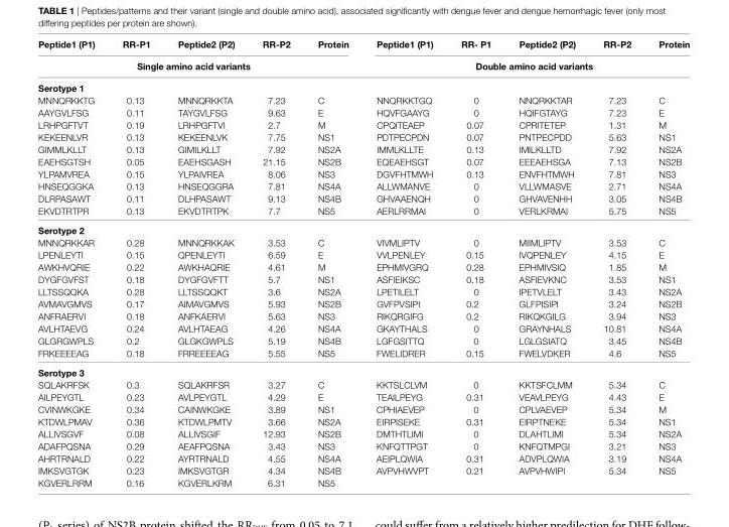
<table><thead><tr><td>Peptide1 (P1)</td><td>rr-P1</td><td>Peptide2 (P2)</td><td>rr-P2</td><td>Protein</td><td>Peptide1 (P1)</td><td>rr- P1</td><td>Peptide2 (P2)</td><td>rr-P2</td><td>Protein</td></tr><tr><td colspan="5">single amino acid variants</td><td colspan="5">Double amino acid variants</td></tr></thead><tbody><tr><td colspan="10">serotype 1</td></tr><tr><td>MNNQRKKTG</td><td>0.13</td><td>MNNQRKKTA</td><td>7.23</td><td>C</td><td>NNQRKKTGQ</td><td>0</td><td>NNQRKKTAR</td><td>7.23</td><td>C</td></tr><tr><td>AAYGVLFSG</td><td>0.11</td><td>TAYGVLFSG</td><td>9.63</td><td>E</td><td>HQVFGAAYG</td><td>0</td><td>HQIFGTAYG</td><td>7.23</td><td>E</td></tr><tr><td>LRHPGFTVT</td><td>0.19</td><td>LRHPGFTVI</td><td>2.7</td><td>M</td><td>CPQITEAEP</td><td>0.07</td><td>CPRITETEP</td><td>1.31</td><td>M</td></tr><tr><td>KEKEENLVR</td><td>0.13</td><td>KEKEENLVK</td><td>7.75</td><td>NS1</td><td>PDTPECPDN</td><td>0.07</td><td>PNTPECPDD</td><td>5.63</td><td>NS1</td></tr><tr><td>GIMMLKLLT</td><td>0.13</td><td>GIMILKLLT</td><td>7.92</td><td>NS2A</td><td>IMMLKLLTE</td><td>0.13</td><td>IMILKLLTD</td><td>7.92</td><td>NS2A</td></tr><tr><td>EAEHSGTSH</td><td>0.05</td><td>EAEHSGASH</td><td>21.15</td><td>NS2B</td><td>EQEAEHSGT</td><td>0.07</td><td>EEEAEHSGA</td><td>7.13</td><td>NS2B</td></tr><tr><td>YLPAMVREA</td><td>0.15</td><td>YLPAIVREA</td><td>8.06</td><td>NS3</td><td>DGVFHTMWH</td><td>0.13</td><td>ENVFHTMWH</td><td>7.81</td><td>NS3</td></tr><tr><td>HNSEQGGKA</td><td>0.13</td><td>HNSEQGGRA</td><td>7.81</td><td>NS4A</td><td>ALLWMANVE</td><td>0</td><td>VLLWMASVE</td><td>2.71</td><td>NS4A</td></tr><tr><td>DLRPASAWT</td><td>0.11</td><td>DLHPASAWT</td><td>9.13</td><td>NS4B</td><td>GHVAAENQH</td><td>0</td><td>GHVAVENHH</td><td>3.05</td><td>NS4B</td></tr><tr><td>EKVDTRTPR</td><td>0.13</td><td>EKVDTRTPK</td><td>7.7</td><td>NS5</td><td>AERLRRMAI</td><td>0</td><td>VERLKRMAI</td><td>5.75</td><td>NS5</td></tr><tr><td colspan="10">serotype 2</td></tr><tr><td>MNNQRKKAR</td><td>0.28</td><td>MNNQRKKAK</td><td>3.53</td><td>C</td><td>VIVMLIPTV</td><td>0</td><td>MIIMLIPTV</td><td>3.53</td><td>C</td></tr><tr><td>LPENLEYTI</td><td>0.15</td><td>QPENLEYTI</td><td>6.59</td><td>E</td><td>VVLPENLEY</td><td>0.15</td><td>IVQPENLEY</td><td>4.15</td><td>E</td></tr><tr><td>AWKHVQRIE</td><td>0.22</td><td>AWKHAQRIE</td><td>4.61</td><td>M</td><td>EPHMIVGRQ</td><td>0.28</td><td>EPHMIVSIQ</td><td>1.85</td><td>M</td></tr><tr><td>DYGFGVFST</td><td>0.18</td><td>DYGFGVFTT</td><td>5.7</td><td>NS1</td><td>ASFIEIKSC</td><td>0.18</td><td>ASFIEVKNC</td><td>3.53</td><td>NS1</td></tr><tr><td>LLTSSQQKA</td><td>0.28</td><td>LLTSSQQKT</td><td>3.6</td><td>NS2A</td><td>LPETILELT</td><td>0</td><td>IPETVLELT</td><td>3.43</td><td>NS2A</td></tr><tr><td>AVMAVGMVS</td><td>0.17</td><td>AIMAVGMVS</td><td>5.93</td><td>NS2B</td><td>GVFPVSIPI</td><td>0.2</td><td>GLFPISIPI</td><td>3.24</td><td>NS2B</td></tr><tr><td>ANFRAERVI</td><td>0.18</td><td>ANFKAERVI</td><td>5.63</td><td>NS3</td><td>RIKQRGIFG</td><td>0.2</td><td>RIKQKGILG</td><td>3.94</td><td>NS3</td></tr><tr><td>AVLHTAEVG</td><td>0.24</td><td>AVLHTAEAG</td><td>4.26</td><td>NS4A</td><td>GKAYTHALS</td><td>0</td><td>GRAYNHALS</td><td>10.81</td><td>NS4A</td></tr><tr><td>GLGRGWPLS</td><td>0.2</td><td>GLGKGWPLS</td><td>5.19</td><td>NS4B</td><td>LGFGSITTQ</td><td>0</td><td>LGLGSIATQ</td><td>3.45</td><td>NS4B</td></tr><tr><td>FRKEEEEAG</td><td>0.18</td><td>FRREEEEAG</td><td>5.55</td><td>NS5</td><td>FWELIDRER</td><td>0.15</td><td>FWELVDKER</td><td>4.6</td><td>NS5</td></tr><tr><td colspan="10">serotype 3</td></tr><tr><td>SQLAKRFSK</td><td>0.3</td><td>SQLAKRFSR</td><td>3.27</td><td>C</td><td>KKTSLCLVM</td><td>0</td><td>KKTSFCLMM</td><td>5.34</td><td>C</td></tr><tr><td>AILPEYGTL</td><td>0.23</td><td>AVLPEYGTL</td><td>4.29</td><td>E</td><td>TEAILPEYG</td><td>0.31</td><td>VEAVLPEYG</td><td>4.43</td><td>E</td></tr><tr><td>CVINWKGKE</td><td>0.34</td><td>CAINWKGKE</td><td>3.89</td><td>NS1</td><td>CPHIAEVEP</td><td>0</td><td>CPLVAEVEP</td><td>5.34</td><td>M</td></tr><tr><td>KTDWLPMAV</td><td>0.36</td><td>KTDWLPMTV</td><td>3.66</td><td>NS2A</td><td>EIRPISEKE</td><td>0.31</td><td>EIRPTNEKE</td><td>5.34</td><td>NS1</td></tr><tr><td>ALLIVSGVF</td><td>0.08</td><td>ALLIVSGIF</td><td>12.93</td><td>NS2B</td><td>DMTHTLIMI</td><td>0</td><td>DLAHTLIMI</td><td>5.34</td><td>NS2A</td></tr><tr><td>ADAFPQSNA</td><td>0.29</td><td>AEAFPQSNA</td><td>3.43</td><td>NS3</td><td>KNFQTTPGT</td><td>0</td><td>KNFQTMPGI</td><td>3.21</td><td>NS3</td></tr><tr><td>AHRTRNALD</td><td>0.22</td><td>AYRTRNALD</td><td>4.55</td><td>NS4A</td><td>AEIPLQWIA</td><td>0.31</td><td>ADVPLQWIA</td><td>3.19</td><td>NS4A</td></tr><tr><td>IMKSVGTGK</td><td>0.23</td><td>IMKSVGTGR</td><td>4.34</td><td>NS4B</td><td>AVPVHWVPT</td><td>0.21</td><td>AVPVHWIPI</td><td>5.34</td><td>NS5</td></tr><tr><td>KGVERLRRM</td><td>0.16</td><td>KGVERLKRM</td><td>6.31</td><td>NS5</td><td></td><td></td><td></td><td></td><td></td></tr></tbody></table>